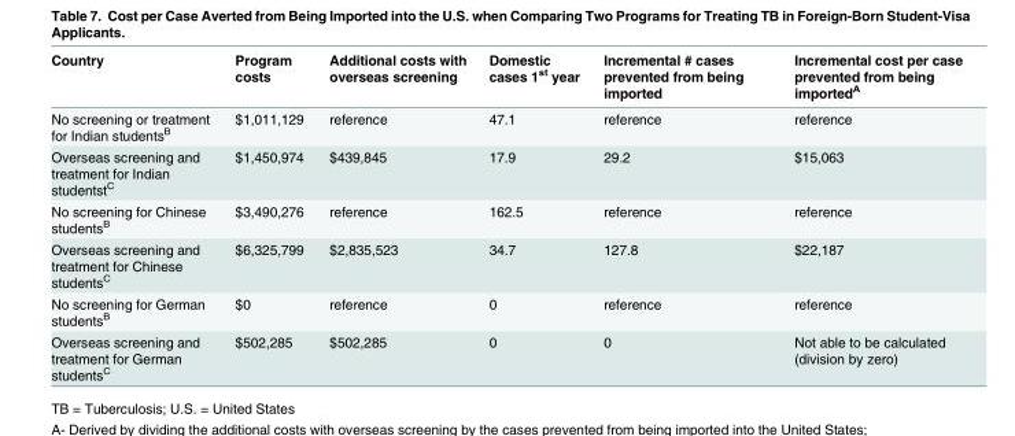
<table><thead><tr><td>Country</td><td>Program costs</td><td>Additional costs with overseas screening</td><td>Domestic cases 1<sup>st</sup> year</td><td>Incremental # cases prevented from being imported</td><td>Incremental cost per case prevented from being imported<sup>A</sup></td></tr></thead><tbody><tr><td>No screening or treatment for Indian students<sup>B</sup></td><td>$1,011,129</td><td>reference</td><td>47.1</td><td>reference</td><td>reference</td></tr><tr><td>Overseas screening and treatment for Indian studentst<sup>C</sup></td><td>$1,450,974</td><td>$439,845</td><td>17.9</td><td>29.2</td><td>$15,063</td></tr><tr><td>No screening for Chinese students<sup>B</sup></td><td>$3,490,276</td><td>reference</td><td>162.5</td><td>reference</td><td>reference</td></tr><tr><td>Overseas screening and treatment for Chinese students<sup>C</sup></td><td>$6,325,799</td><td>$2,835,523</td><td>34.7</td><td>127.8</td><td>$22,187</td></tr><tr><td>No screening for German students<sup>B</sup></td><td>$0</td><td>reference</td><td>0</td><td>reference</td><td>reference</td></tr><tr><td>Overseas screening and treatment for German students<sup>C</sup></td><td>$502,285</td><td>$502,285</td><td>0</td><td>0</td><td>Not able to be calculated (division by zero)</td></tr></tbody></table>